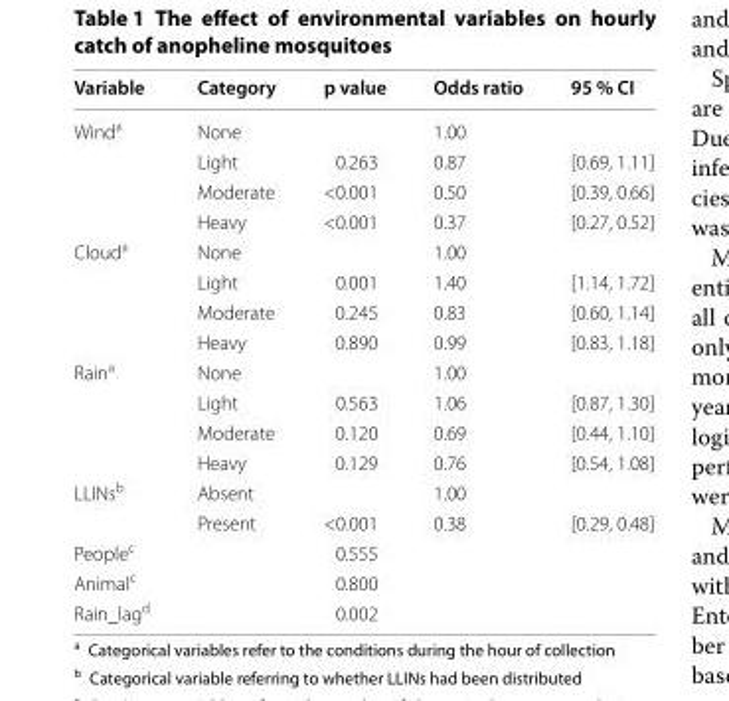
<table><thead><tr><td>Variable</td><td>Category</td><td>p value</td><td>Odds ratio</td><td>95 % CI</td></tr></thead><tbody><tr><td rowspan="4">Wind<sup>a</sup></td><td>None</td><td></td><td>1.00</td><td></td></tr><tr><td>Light</td><td>0.263</td><td>0.87</td><td>[0.69, 1.11]</td></tr><tr><td>Moderate</td><td>&lt;0.001</td><td>0.50</td><td>[0.39, 0.66]</td></tr><tr><td>Heavy</td><td>&lt;0.001</td><td>0.37</td><td>[0.27, 0.52]</td></tr><tr><td rowspan="4">Cloud<sup>a</sup></td><td>None</td><td></td><td>1.00</td><td></td></tr><tr><td>Light</td><td>0.001</td><td>1.40</td><td>[1.14, 1.72]</td></tr><tr><td>Moderate</td><td>0.245</td><td>0.83</td><td>[0.60, 1.14]</td></tr><tr><td>Heavy</td><td>0.890</td><td>0.99</td><td>[0.83, 1.18]</td></tr><tr><td rowspan="4">Rain<sup>a</sup></td><td>None</td><td></td><td>1.00</td><td></td></tr><tr><td>Light</td><td>0.563</td><td>1.06</td><td>[0.87, 1.30]</td></tr><tr><td>Moderate</td><td>0.120</td><td>0.69</td><td>[0.44, 1.10]</td></tr><tr><td>Heavy</td><td>0.129</td><td>0.76</td><td>[0.54, 1.08]</td></tr><tr><td rowspan="2">LLINs<sup>b</sup></td><td>Absent</td><td></td><td>1.00</td><td></td></tr><tr><td>Present</td><td>&lt;0.001</td><td>0.38</td><td>[0.29, 0.48]</td></tr><tr><td>People<sup>c</sup></td><td></td><td>0.555</td><td></td><td></td></tr><tr><td>Animal<sup>c</sup></td><td></td><td>0.800</td><td></td><td></td></tr><tr><td>Rain_lag<sup>d</sup></td><td></td><td>0.002</td><td></td><td></td></tr></tbody></table>